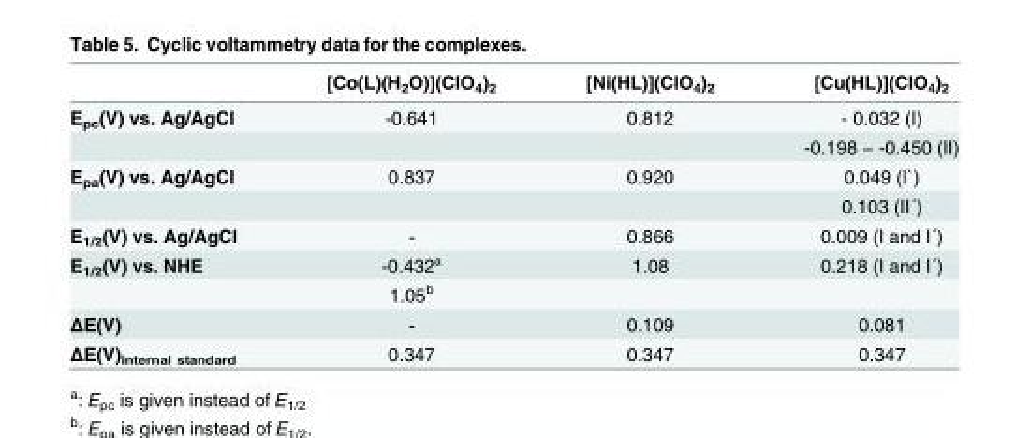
<table><thead><tr><td></td><td>[Co(L)(H<sub>2</sub>O)](ClO<sub>4</sub>)<sub>2</sub></td><td>[Ni(HL)](ClO<sub>4</sub>)<sub>2</sub></td><td>[Cu(HL)](ClO<sub>4</sub>)<sub>2</sub></td></tr></thead><tbody><tr><td rowspan="2">E<sub>pc</sub>(V) vs. Ag/AgCl</td><td>-0.641</td><td>0.812</td><td>- 0.032 (I)</td></tr><tr><td></td><td></td><td>-0.198 − -0.450 (II)</td></tr><tr><td rowspan="2">E<sub>pa</sub>(V) vs. Ag/AgCl</td><td>0.837</td><td>0.920</td><td>0.049 (I`)</td></tr><tr><td></td><td></td><td>0.103 (II´)</td></tr><tr><td>E<sub>1/2</sub>(V) vs. Ag/AgCl</td><td>-</td><td>0.866</td><td>0.009 (I and I´)</td></tr><tr><td rowspan="2">E<sub>1/2</sub>(V) vs. NHE</td><td>-0.432ª</td><td>1.08</td><td>0.218 (I and I´)</td></tr><tr><td>1.05<sup>b</sup></td><td></td><td></td></tr><tr><td>ΔE(V)</td><td>-</td><td>0.109</td><td>0.081</td></tr><tr><td>ΔE(V)<sub>internal standard</sub></td><td>0.347</td><td>0.347</td><td>0.347</td></tr></tbody></table>